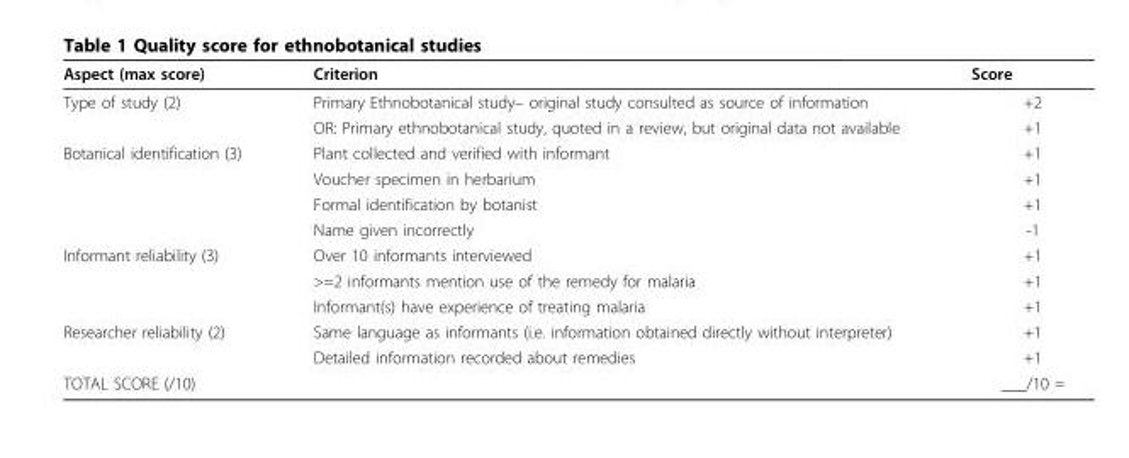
<table><thead><tr><td>Aspect (max score)</td><td>Criterion</td><td>Score</td></tr></thead><tbody><tr><td rowspan="2">Type of study (2)</td><td>Primary Ethnobotanical study– original study consulted as source of information</td><td>+2</td></tr><tr><td>OR: Primary ethnobotanical study, quoted in a review, but original data not available</td><td>+1</td></tr><tr><td rowspan="4">Botanical identification (3)</td><td>Plant collected and verified with informant</td><td>+1</td></tr><tr><td>Voucher specimen in herbarium</td><td>+1</td></tr><tr><td>Formal identification by botanist</td><td>+1</td></tr><tr><td>Name given incorrectly</td><td>-1</td></tr><tr><td rowspan="3">Informant reliability (3)</td><td>Over 10 informants interviewed</td><td>+1</td></tr><tr><td>&gt;=2 informants mention use of the remedy for malaria</td><td>+1</td></tr><tr><td>Informant(s) have experience of treating malaria</td><td>+1</td></tr><tr><td rowspan="2">Researcher reliability (2)</td><td>Same language as informants (i.e. information obtained directly without interpreter)</td><td>+1</td></tr><tr><td>Detailed information recorded about remedies</td><td>+1</td></tr><tr><td>TOTAL SCORE (/10)</td><td></td><td>___/10 =</td></tr></tbody></table>